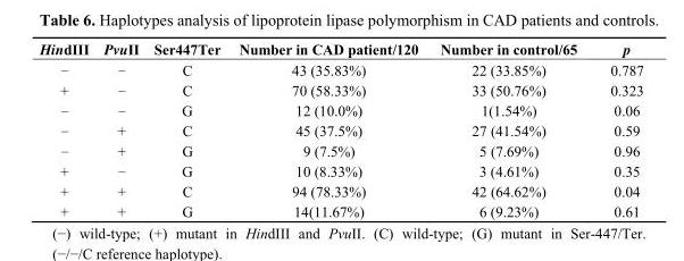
<table><thead><tr><td>HindIII</td><td>PvuII</td><td>Ser447Ter</td><td>Number in CAD patient/120</td><td>Number in control/65</td><td>p</td></tr></thead><tbody><tr><td>−</td><td>−</td><td>C</td><td>43 (35.83%)</td><td>22 (33.85%)</td><td>0.787</td></tr><tr><td>+</td><td>−</td><td>C</td><td>70 (58.33%)</td><td>33 (50.76%)</td><td>0.323</td></tr><tr><td>−</td><td>−</td><td>G</td><td>12 (10.0%)</td><td>1(1.54%)</td><td>0.06</td></tr><tr><td>−</td><td>+</td><td>C</td><td>45 (37.5%)</td><td>27 (41.54%)</td><td>0.59</td></tr><tr><td>−</td><td>+</td><td>G</td><td>9 (7.5%)</td><td>5 (7.69%)</td><td>0.96</td></tr><tr><td>+</td><td>−</td><td>G</td><td>10 (8.33%)</td><td>3 (4.61%)</td><td>0.35</td></tr><tr><td>+</td><td>+</td><td>C</td><td>94 (78.33%)</td><td>42 (64.62%)</td><td>0.04</td></tr><tr><td>+</td><td>+</td><td>G</td><td>14(11.67%)</td><td>6 (9.23%)</td><td>0.61</td></tr></tbody></table>